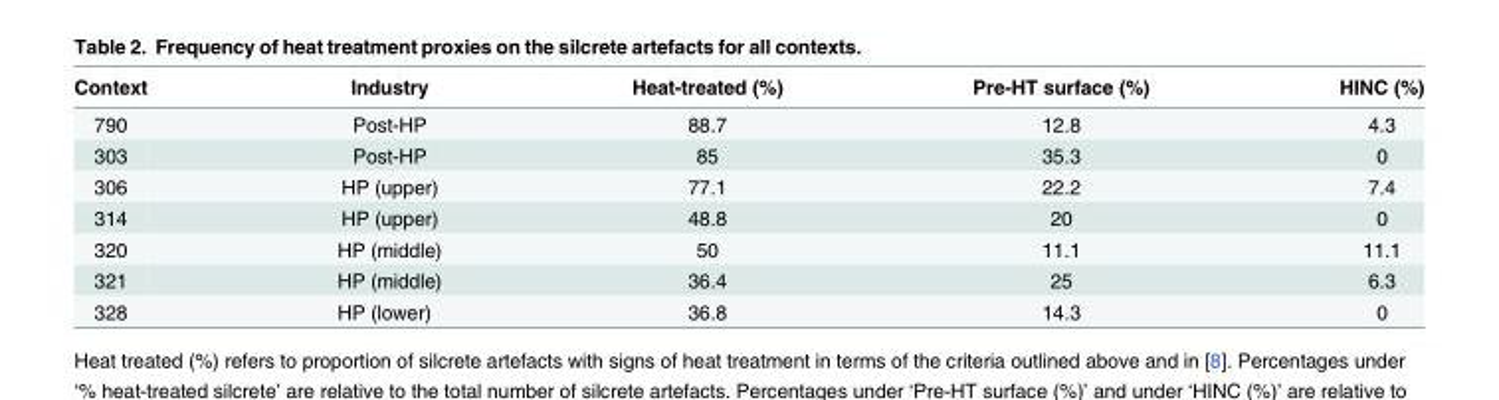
<table><thead><tr><td>Context</td><td>Industry</td><td>Heat-treated (%)</td><td>Pre-HT surface (%)</td><td>HINC (%)</td></tr></thead><tbody><tr><td>790</td><td>Post-HP</td><td>88.7</td><td>12.8</td><td>4.3</td></tr><tr><td>303</td><td>Post-HP</td><td>85</td><td>35.3</td><td>0</td></tr><tr><td>306</td><td>HP (upper)</td><td>77.1</td><td>22.2</td><td>7.4</td></tr><tr><td>314</td><td>HP (upper)</td><td>48.8</td><td>20</td><td>0</td></tr><tr><td>320</td><td>HP (middle)</td><td>50</td><td>11.1</td><td>11.1</td></tr><tr><td>321</td><td>HP (middle)</td><td>36.4</td><td>25</td><td>6.3</td></tr><tr><td>328</td><td>HP (lower)</td><td>36.8</td><td>14.3</td><td>0</td></tr></tbody></table>